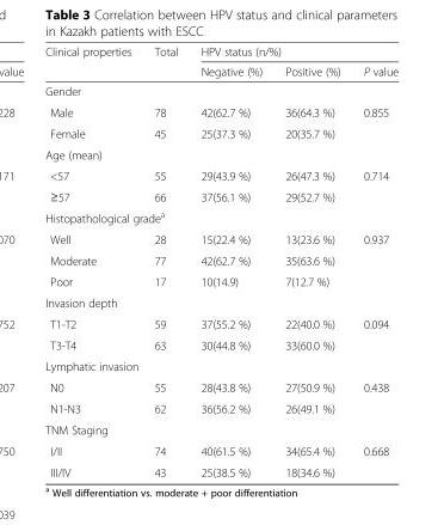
<table><thead><tr><td rowspan="2">Clinical properties</td><td rowspan="2">Total</td><td colspan="3">HPV status (n/%)</td></tr><tr><td>Negative (%)</td><td>Positive (%)</td><td>P value</td></tr></thead><tbody><tr><td colspan="5">Gender</td></tr><tr><td>Male</td><td>78</td><td>42(62.7 %)</td><td>36(64.3 %)</td><td rowspan="2">0.855</td></tr><tr><td>Female</td><td>45</td><td>25(37.3 %)</td><td>20(35.7 %)</td></tr><tr><td colspan="5">Age (mean)</td></tr><tr><td>&lt;57</td><td>55</td><td>29(43.9 %)</td><td>26(47.3 %)</td><td rowspan="2">0.714</td></tr><tr><td>≥57</td><td>66</td><td>37(56.1 %)</td><td>29(52.7 %)</td></tr><tr><td colspan="5">Histopathological grade<sup>a</sup></td></tr><tr><td>Well</td><td>28</td><td>15(22.4 %)</td><td>13(23.6 %)</td><td rowspan="3">0.937</td></tr><tr><td>Moderate</td><td>77</td><td>42(62.7 %)</td><td>35(63.6 %)</td></tr><tr><td>Poor</td><td>17</td><td>10(14.9)</td><td>7(12.7 %)</td></tr><tr><td colspan="5">Invasion depth</td></tr><tr><td>T1-T2</td><td>59</td><td>37(55.2 %)</td><td>22(40.0 %)</td><td rowspan="2">0.094</td></tr><tr><td>T3-T4</td><td>63</td><td>30(44.8 %)</td><td>33(60.0 %)</td></tr><tr><td colspan="5">Lymphatic invasion</td></tr><tr><td>N0</td><td>55</td><td>28(43.8 %)</td><td>27(50.9 %)</td><td rowspan="2">0.438</td></tr><tr><td>N1-N3</td><td>62</td><td>36(56.2 %)</td><td>26(49.1 %)</td></tr><tr><td colspan="5">TNM Staging</td></tr><tr><td>I/II</td><td>74</td><td>40(61.5 %)</td><td>34(65.4 %)</td><td rowspan="2">0.668</td></tr><tr><td>III/IV</td><td>43</td><td>25(38.5 %)</td><td>18(34.6 %)</td></tr></tbody></table>